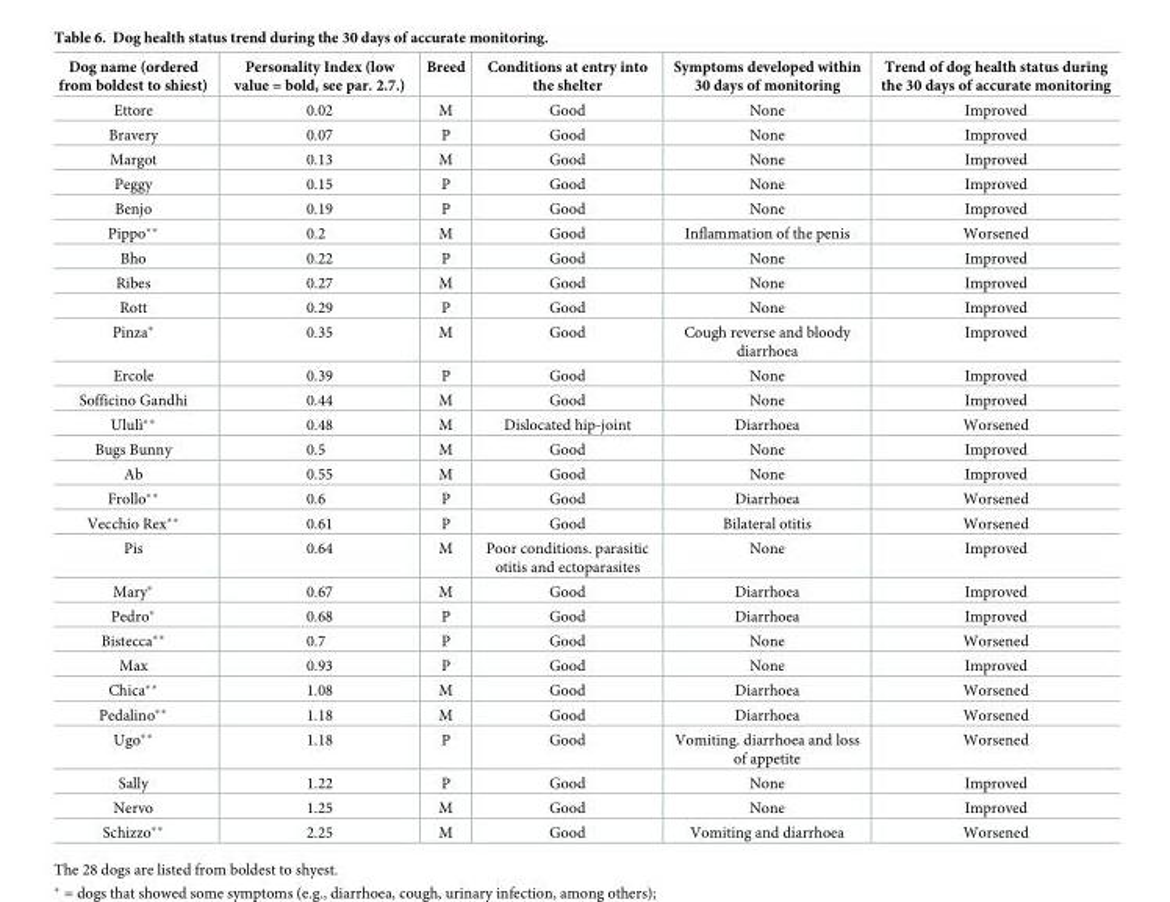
<table><thead><tr><td>Dog name (ordered from boldest to shiest)</td><td>Personality Index (low value = bold, see par. 2.7.)</td><td>Breed</td><td>Conditions at entry into the shelter</td><td>Symptoms developed within 30 days of monitoring</td><td>Trend of dog health status during the 30 days of accurate monitoring</td></tr></thead><tbody><tr><td>Ettore</td><td>0.02</td><td>M</td><td>Good</td><td>None</td><td>Improved</td></tr><tr><td>Bravery</td><td>0.07</td><td>P</td><td>Good</td><td>None</td><td>Improved</td></tr><tr><td>Margot</td><td>0.13</td><td>M</td><td>Good</td><td>None</td><td>Improved</td></tr><tr><td>Peggy</td><td>0.15</td><td>P</td><td>Good</td><td>None</td><td>Improved</td></tr><tr><td>Benjo</td><td>0.19</td><td>P</td><td>Good</td><td>None</td><td>Improved</td></tr><tr><td>Pippo**</td><td>0.2</td><td>M</td><td>Good</td><td>Inflammation of the penis</td><td>Worsened</td></tr><tr><td>Bho</td><td>0.22</td><td>P</td><td>Good</td><td>None</td><td>Improved</td></tr><tr><td>Ribes</td><td>0.27</td><td>M</td><td>Good</td><td>None</td><td>Improved</td></tr><tr><td>Rott</td><td>0.29</td><td>P</td><td>Good</td><td>None</td><td>Improved</td></tr><tr><td>Pinza*</td><td>0.35</td><td>M</td><td>Good</td><td>Cough reverse and bloody diarrhoea</td><td>Improved</td></tr><tr><td>Ercole</td><td>0.39</td><td>P</td><td>Good</td><td>None</td><td>Improved</td></tr><tr><td>Sofficino Gandhi</td><td>0.44</td><td>M</td><td>Good</td><td>None</td><td>Improved</td></tr><tr><td>Ululı`��</td><td>0.48</td><td>M</td><td>Dislocated hip-joint</td><td>Diarrhoea</td><td>Worsened</td></tr><tr><td>Bugs Bunny</td><td>0.5</td><td>M</td><td>Good</td><td>None</td><td>Improved</td></tr><tr><td>Ab</td><td>0.55</td><td>M</td><td>Good</td><td>None</td><td>Improved</td></tr><tr><td>Frollo**</td><td>0.6</td><td>P</td><td>Good</td><td>Diarrhoea</td><td>Worsened</td></tr><tr><td>Vecchio Rex**</td><td>0.61</td><td>P</td><td>Good</td><td>Bilateral otitis</td><td>Worsened</td></tr><tr><td>Pis</td><td>0.64</td><td>M</td><td>Poor conditions. parasitic otitis and ectoparasites</td><td>None</td><td>Improved</td></tr><tr><td>Mary*</td><td>0.67</td><td>M</td><td>Good</td><td>Diarrhoea</td><td>Improved</td></tr><tr><td>Pedro*</td><td>0.68</td><td>P</td><td>Good</td><td>Diarrhoea</td><td>Improved</td></tr><tr><td>Bistecca**</td><td>0.7</td><td>P</td><td>Good</td><td>None</td><td>Worsened</td></tr><tr><td>Max</td><td>0.93</td><td>P</td><td>Good</td><td>None</td><td>Improved</td></tr><tr><td>Chica**</td><td>1.08</td><td>M</td><td>Good</td><td>Diarrhoea</td><td>Worsened</td></tr><tr><td>Pedalino**</td><td>1.18</td><td>M</td><td>Good</td><td>Diarrhoea</td><td>Worsened</td></tr><tr><td>Ugo**</td><td>1.18</td><td>P</td><td>Good</td><td>Vomiting. diarrhoea and loss of appetite</td><td>Worsened</td></tr><tr><td>Sally</td><td>1.22</td><td>P</td><td>Good</td><td>None</td><td>Improved</td></tr><tr><td>Nervo</td><td>1.25</td><td>M</td><td>Good</td><td>None</td><td>Improved</td></tr><tr><td>Schizzo**</td><td>2.25</td><td>M</td><td>Good</td><td>Vomiting and diarrhoea</td><td>Worsened</td></tr></tbody></table>